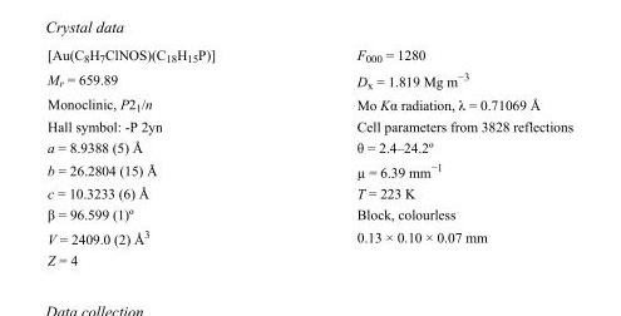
<table><tbody><tr><td>[Au(C<sub>8</sub>H<sub>7</sub>ClNOS)(C<sub>18</sub>H<sub>15</sub>P)]</td><td>F000 = 1280</td></tr><tr><td>M<sub>r</sub> = 659.89</td><td>D<sub>x</sub> = 1.819 Mg m<sup>−3</sup></td></tr><tr><td>Monoclinic, P2<sub>1</sub>/n</td><td>Mo Kα radiation, λ = 0.71069 Å</td></tr><tr><td>Hall symbol: -P 2yn</td><td>Cell parameters from 3828 reflections</td></tr><tr><td>a = 8.9388 (5) Å</td><td>θ = 2.4–24.2º</td></tr><tr><td>b = 26.2804 (15) Å</td><td>µ = 6.39 mm<sup>−1</sup></td></tr><tr><td>c = 10.3233 (6) Å</td><td>T = 223 K</td></tr><tr><td>β = 96.599 (1)º</td><td>Block, colourless</td></tr><tr><td>V = 2409.0 (2) Å<sup>3</sup></td><td>0.13 × 0.10 × 0.07 mm</td></tr><tr><td>Z = 4</td><td></td></tr></tbody></table>